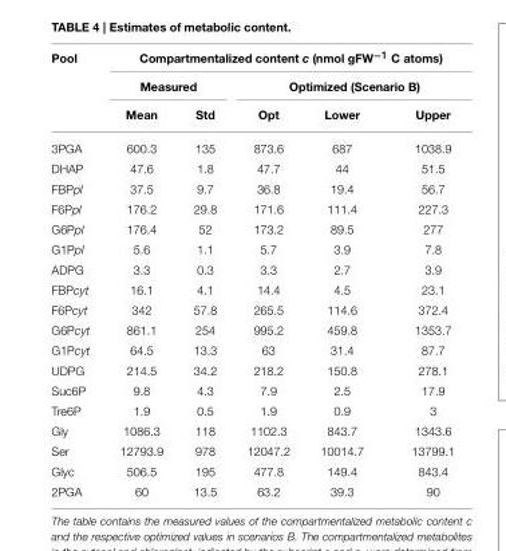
<table><thead><tr><td rowspan="3">Pool</td><td colspan="5">Compartmentalized content c (nmol gFW<sup>−1</sup> C atoms)</td></tr><tr><td colspan="2">Measured</td><td colspan="3">Optimized (Scenario B)</td></tr><tr><td>Mean</td><td>Std</td><td>Opt</td><td>Lower</td><td>Upper</td></tr></thead><tbody><tr><td>3PGA</td><td>600.3</td><td>135</td><td>873.6</td><td>687</td><td>1038.9</td></tr><tr><td>DHAP</td><td>47.6</td><td>1.8</td><td>47.7</td><td>44</td><td>51.5</td></tr><tr><td>FBPpl</td><td>37.5</td><td>9.7</td><td>36.8</td><td>19.4</td><td>56.7</td></tr><tr><td>F6Ppl</td><td>176.2</td><td>29.8</td><td>171.6</td><td>111.4</td><td>227.3</td></tr><tr><td>G6Ppl</td><td>176.4</td><td>52</td><td>173.2</td><td>89.5</td><td>277</td></tr><tr><td>G1Ppl</td><td>5.6</td><td>1.1</td><td>5.7</td><td>3.9</td><td>7.8</td></tr><tr><td>ADPG</td><td>3.3</td><td>0.3</td><td>3.3</td><td>2.7</td><td>3.9</td></tr><tr><td>FBPcyt</td><td>16.1</td><td>4.1</td><td>14.4</td><td>4.5</td><td>23.1</td></tr><tr><td>F6Pcyt</td><td>342</td><td>57.8</td><td>265.5</td><td>114.6</td><td>372.4</td></tr><tr><td>G6Pcyt</td><td>861.1</td><td>254</td><td>995.2</td><td>459.8</td><td>1353.7</td></tr><tr><td>G1Pcyt</td><td>64.5</td><td>13.3</td><td>63</td><td>31.4</td><td>87.7</td></tr><tr><td>UDPG</td><td>214.5</td><td>34.2</td><td>218.2</td><td>150.8</td><td>278.1</td></tr><tr><td>Suc6P</td><td>9.8</td><td>4.3</td><td>7.9</td><td>2.5</td><td>17.9</td></tr><tr><td>Tre6P</td><td>1.9</td><td>0.5</td><td>1.9</td><td>0.9</td><td>3</td></tr><tr><td>Gly</td><td>1086.3</td><td>118</td><td>1102.3</td><td>843.7</td><td>1343.6</td></tr><tr><td>Ser</td><td>12793.9</td><td>978</td><td>12047.2</td><td>10014.7</td><td>13799.1</td></tr><tr><td>Glyc</td><td>506.5</td><td>195</td><td>477.8</td><td>149.4</td><td>843.4</td></tr><tr><td>2PGA</td><td>60</td><td>13.5</td><td>63.2</td><td>39.3</td><td>90</td></tr></tbody></table>